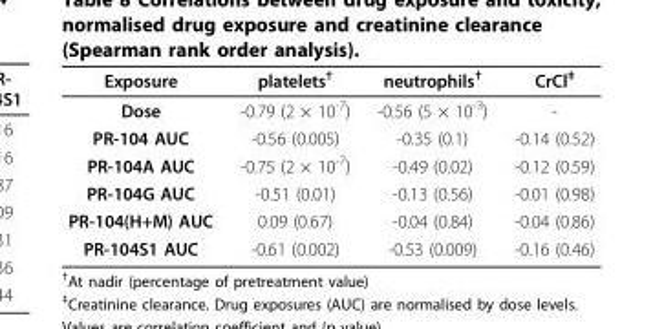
<table><thead><tr><td>Exposure</td><td>platelets<sup>†</sup></td><td>neutrophils<sup>†</sup></td><td>CrCl<sup>‡</sup></td></tr></thead><tbody><tr><td>Dose</td><td>-0.79 (2 × 10<sup>-7</sup>)</td><td>-0.56 (5 × 10<sup>-3</sup>)</td><td>-</td></tr><tr><td>PR-104 AUC</td><td>-0.56 (0.005)</td><td>-0.35 (0.1)</td><td>-0.14 (0.52)</td></tr><tr><td>PR-104A AUC</td><td>-0.75 (2 × 10<sup>-7</sup>)</td><td>-0.49 (0.02)</td><td>-0.12 (0.59)</td></tr><tr><td>PR-104G AUC</td><td>-0.51 (0.01)</td><td>-0.13 (0.56)</td><td>-0.01 (0.98)</td></tr><tr><td>PR-104(H+M) AUC</td><td>0.09 (0.67)</td><td>-0.04 (0.84)</td><td>-0.04 (0.86)</td></tr><tr><td>PR-104S1 AUC</td><td>-0.61 (0.002)</td><td>-0.53 (0.009)</td><td>-0.16 (0.46)</td></tr></tbody></table>